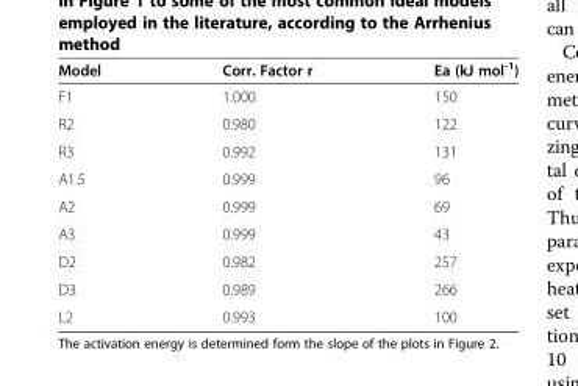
<table><thead><tr><td>Model</td><td>Corr. Factor r</td><td>Ea (kJ mol<sup>-1</sup>)</td></tr></thead><tbody><tr><td>F1</td><td>1.000</td><td>150</td></tr><tr><td>R2</td><td>0.980</td><td>122</td></tr><tr><td>R3</td><td>0.992</td><td>131</td></tr><tr><td>A1.5</td><td>0.999</td><td>96</td></tr><tr><td>A2</td><td>0.999</td><td>69</td></tr><tr><td>A3</td><td>0.999</td><td>43</td></tr><tr><td>D2</td><td>0.982</td><td>257</td></tr><tr><td>D3</td><td>0.989</td><td>266</td></tr><tr><td>L2</td><td>0.993</td><td>100</td></tr></tbody></table>